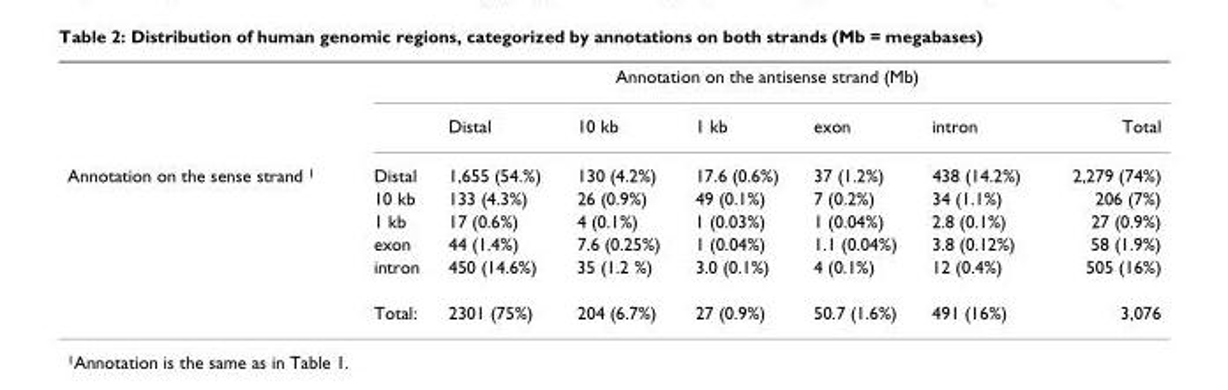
<table><thead><tr><td rowspan="2"></td><td colspan="7">Annotation on the antisense strand (Mb)</td></tr><tr><td></td><td>Distal</td><td>10 kb</td><td>1 kb</td><td>exon</td><td>intron</td><td>Total</td></tr></thead><tbody><tr><td rowspan="6">Annotation on the sense strand 1</td><td>Distal</td><td>1,655 (54.%)</td><td>130 (4.2%)</td><td>17.6 (0.6%)</td><td>37 (1.2%)</td><td>438 (14.2%)</td><td>2,279 (74%)</td></tr><tr><td>10 kb</td><td>133 (4.3%)</td><td>26 (0.9%)</td><td>49 (0.1%)</td><td>7 (0.2%)</td><td>34 (1.1%)</td><td>206 (7%)</td></tr><tr><td>1 kb</td><td>17 (0.6%)</td><td>4 (0.1%)</td><td>1 (0.03%)</td><td>1 (0.04%)</td><td>2.8 (0.1%)</td><td>27 (0.9%)</td></tr><tr><td>exon</td><td>44 (1.4%)</td><td>7.6 (0.25%)</td><td>1 (0.04%)</td><td>1.1 (0.04%)</td><td>3.8 (0.12%)</td><td>58 (1.9%)</td></tr><tr><td>intron</td><td>450 (14.6%)</td><td>35 (1.2 %)</td><td>3.0 (0.1%)</td><td>4 (0.1%)</td><td>12 (0.4%)</td><td>505 (16%)</td></tr><tr><td>Total:</td><td>2301 (75%)</td><td>204 (6.7%)</td><td>27 (0.9%)</td><td>50.7 (1.6%)</td><td>491 (16%)</td><td>3,076</td></tr></tbody></table>